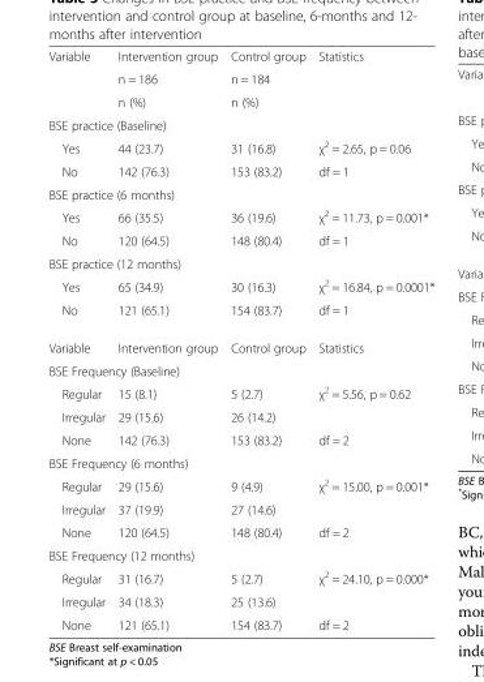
<table><tbody><tr><td rowspan="3">Variable</td><td>Intervention group</td><td>Control group</td><td rowspan="3">Statistics</td></tr><tr><td>n = 186</td><td>n = 184</td></tr><tr><td>n (%)</td><td>n (%)</td></tr><tr><td colspan="4">BSE practice (Baseline)</td></tr><tr><td>Yes</td><td>44 (23.7)</td><td>31 (16.8)</td><td>χ<sup>2</sup> = 2.65, p = 0.06</td></tr><tr><td>No</td><td>142 (76.3)</td><td>153 (83.2)</td><td>df = 1</td></tr><tr><td colspan="4">BSE practice (6 months)</td></tr><tr><td>Yes</td><td>66 (35.5)</td><td>36 (19.6)</td><td>χ<sup>2</sup> = 11.73, p = 0.001*</td></tr><tr><td>No</td><td>120 (64.5)</td><td>148 (80.4)</td><td>df = 1</td></tr><tr><td colspan="4">BSE practice (12 months)</td></tr><tr><td>Yes</td><td>65 (34.9)</td><td>30 (16.3)</td><td>χ<sup>2</sup> = 16.84, p = 0.0001*</td></tr><tr><td>No</td><td>121 (65.1)</td><td>154 (83.7)</td><td>df = 1</td></tr><tr><td>Variable</td><td>Intervention group</td><td>Control group</td><td>Statistics</td></tr><tr><td colspan="4">BSE Frequency (Baseline)</td></tr><tr><td>Regular</td><td>15 (8.1)</td><td>5 (2.7)</td><td rowspan="2">χ<sup>2</sup> = 5.56, p = 0.62</td></tr><tr><td>Irregular</td><td>29 (15.6)</td><td>26 (14.2)</td></tr><tr><td>None</td><td>142 (76.3)</td><td>153 (83.2)</td><td>df = 2</td></tr><tr><td colspan="4">BSE Frequency (6 months)</td></tr><tr><td>Regular</td><td>29 (15.6)</td><td>9 (4.9)</td><td rowspan="2">χ<sup>2</sup> = 15.00, p = 0.001*</td></tr><tr><td>Irregular</td><td>37 (19.9)</td><td>27 (14.6)</td></tr><tr><td>None</td><td>120 (64.5)</td><td>148 (80.4)</td><td>df = 2</td></tr><tr><td colspan="4">BSE Frequency (12 months)</td></tr><tr><td>Regular</td><td>31 (16.7)</td><td>5 (2.7)</td><td rowspan="2">χ<sup>2</sup> = 24.10, p = 0.000*</td></tr><tr><td>Irregular</td><td>34 (18.3)</td><td>25 (13.6)</td></tr><tr><td>None</td><td>121 (65.1)</td><td>154 (83.7)</td><td>df = 2</td></tr></tbody></table>